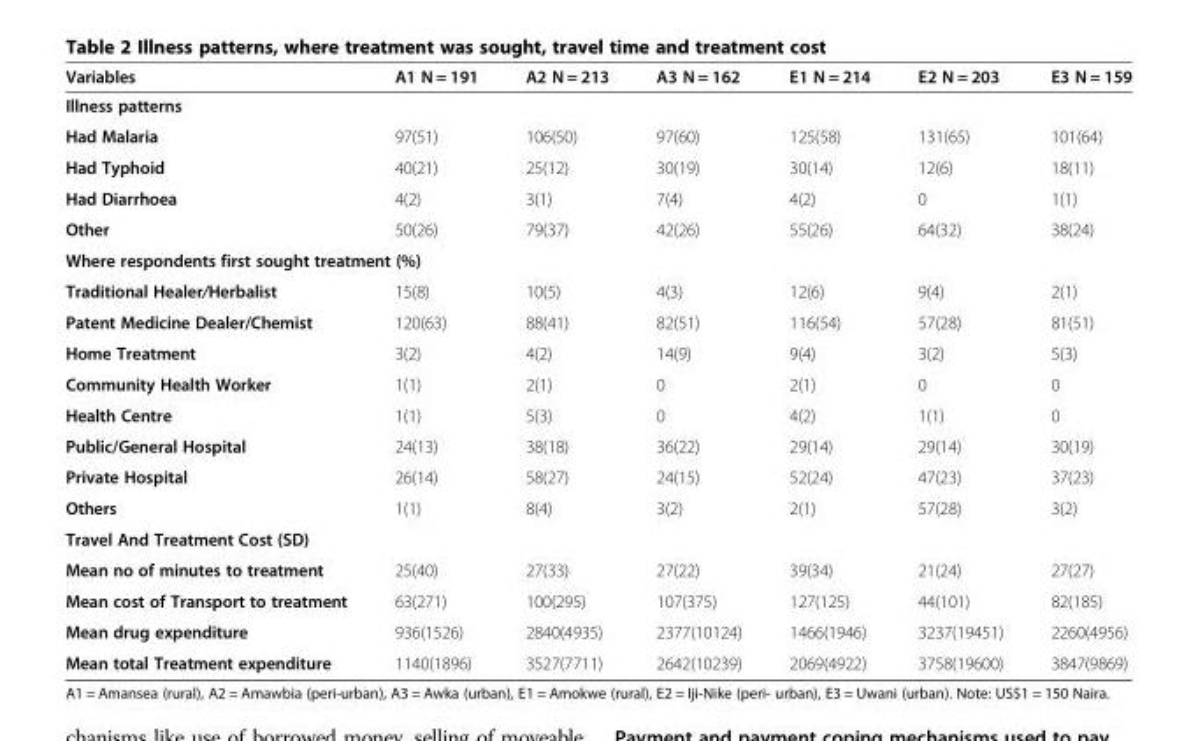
<table><thead><tr><td>Variables</td><td>A1 N = 191</td><td>A2 N = 213</td><td>A3 N = 162</td><td>E1 N = 214</td><td>E2 N = 203</td><td>E3 N = 159</td></tr></thead><tbody><tr><td colspan="7">Illness patterns</td></tr><tr><td>Had Malaria</td><td>97(51)</td><td>106(50)</td><td>97(60)</td><td>125(58)</td><td>131(65)</td><td>101(64)</td></tr><tr><td>Had Typhoid</td><td>40(21)</td><td>25(12)</td><td>30(19)</td><td>30(14)</td><td>12(6)</td><td>18(11)</td></tr><tr><td>Had Diarrhoea</td><td>4(2)</td><td>3(1)</td><td>7(4)</td><td>4(2)</td><td>0</td><td>1(1)</td></tr><tr><td>Other</td><td>50(26)</td><td>79(37)</td><td>42(26)</td><td>55(26)</td><td>64(32)</td><td>38(24)</td></tr><tr><td colspan="7">Where respondents first sought treatment (%)</td></tr><tr><td>Traditional Healer/Herbalist</td><td>15(8)</td><td>10(5)</td><td>4(3)</td><td>12(6)</td><td>9(4)</td><td>2(1)</td></tr><tr><td>Patent Medicine Dealer/Chemist</td><td>120(63)</td><td>88(41)</td><td>82(51)</td><td>116(54)</td><td>57(28)</td><td>81(51)</td></tr><tr><td>Home Treatment</td><td>3(2)</td><td>4(2)</td><td>14(9)</td><td>9(4)</td><td>3(2)</td><td>5(3)</td></tr><tr><td>Community Health Worker</td><td>1(1)</td><td>2(1)</td><td>0</td><td>2(1)</td><td>0</td><td>0</td></tr><tr><td>Health Centre</td><td>1(1)</td><td>5(3)</td><td>0</td><td>4(2)</td><td>1(1)</td><td>0</td></tr><tr><td>Public/General Hospital</td><td>24(13)</td><td>38(18)</td><td>36(22)</td><td>29(14)</td><td>29(14)</td><td>30(19)</td></tr><tr><td>Private Hospital</td><td>26(14)</td><td>58(27)</td><td>24(15)</td><td>52(24)</td><td>47(23)</td><td>37(23)</td></tr><tr><td>Others</td><td>1(1)</td><td>8(4)</td><td>3(2)</td><td>2(1)</td><td>57(28)</td><td>3(2)</td></tr><tr><td colspan="7">Travel And Treatment Cost (SD)</td></tr><tr><td>Mean no of minutes to treatment</td><td>25(40)</td><td>27(33)</td><td>27(22)</td><td>39(34)</td><td>21(24)</td><td>27(27)</td></tr><tr><td>Mean cost of Transport to treatment</td><td>63(271)</td><td>100(295)</td><td>107(375)</td><td>127(125)</td><td>44(101)</td><td>82(185)</td></tr><tr><td>Mean drug expenditure</td><td>936(1526)</td><td>2840(4935)</td><td>2377(10124)</td><td>1466(1946)</td><td>3237(19451)</td><td>2260(4956)</td></tr><tr><td>Mean total Treatment expenditure</td><td>1140(1896)</td><td>3527(7711)</td><td>2642(10239)</td><td>2069(4922)</td><td>3758(19600)</td><td>3847(9869)</td></tr></tbody></table>